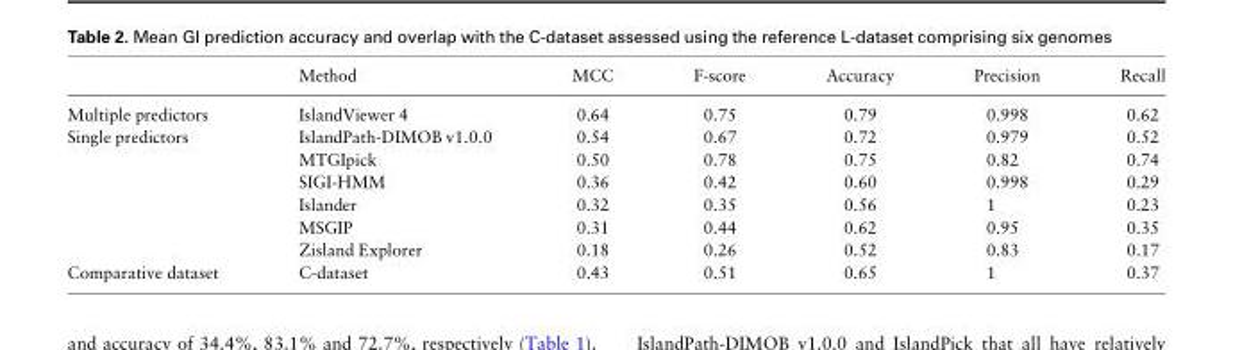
<table><thead><tr><td></td><td>Method</td><td>MCC</td><td>F-score</td><td>Accuracy</td><td>Precision</td><td>Recall</td></tr></thead><tbody><tr><td>Multiple predictors</td><td>IslandViewer 4</td><td>0.64</td><td>0.75</td><td>0.79</td><td>0.998</td><td>0.62</td></tr><tr><td rowspan="6">Single predictors</td><td>IslandPath-DIMOB v1.0.0</td><td>0.54</td><td>0.67</td><td>0.72</td><td>0.979</td><td>0.52</td></tr><tr><td>MTGIpick</td><td>0.50</td><td>0.78</td><td>0.75</td><td>0.82</td><td>0.74</td></tr><tr><td>SIGI-HMM</td><td>0.36</td><td>0.42</td><td>0.60</td><td>0.998</td><td>0.29</td></tr><tr><td>Islander</td><td>0.32</td><td>0.35</td><td>0.56</td><td>1</td><td>0.23</td></tr><tr><td>MSGIP</td><td>0.31</td><td>0.44</td><td>0.62</td><td>0.95</td><td>0.35</td></tr><tr><td>Zisland Explorer</td><td>0.18</td><td>0.26</td><td>0.52</td><td>0.83</td><td>0.17</td></tr><tr><td>Comparative dataset</td><td>C-dataset</td><td>0.43</td><td>0.51</td><td>0.65</td><td>1</td><td>0.37</td></tr></tbody></table>